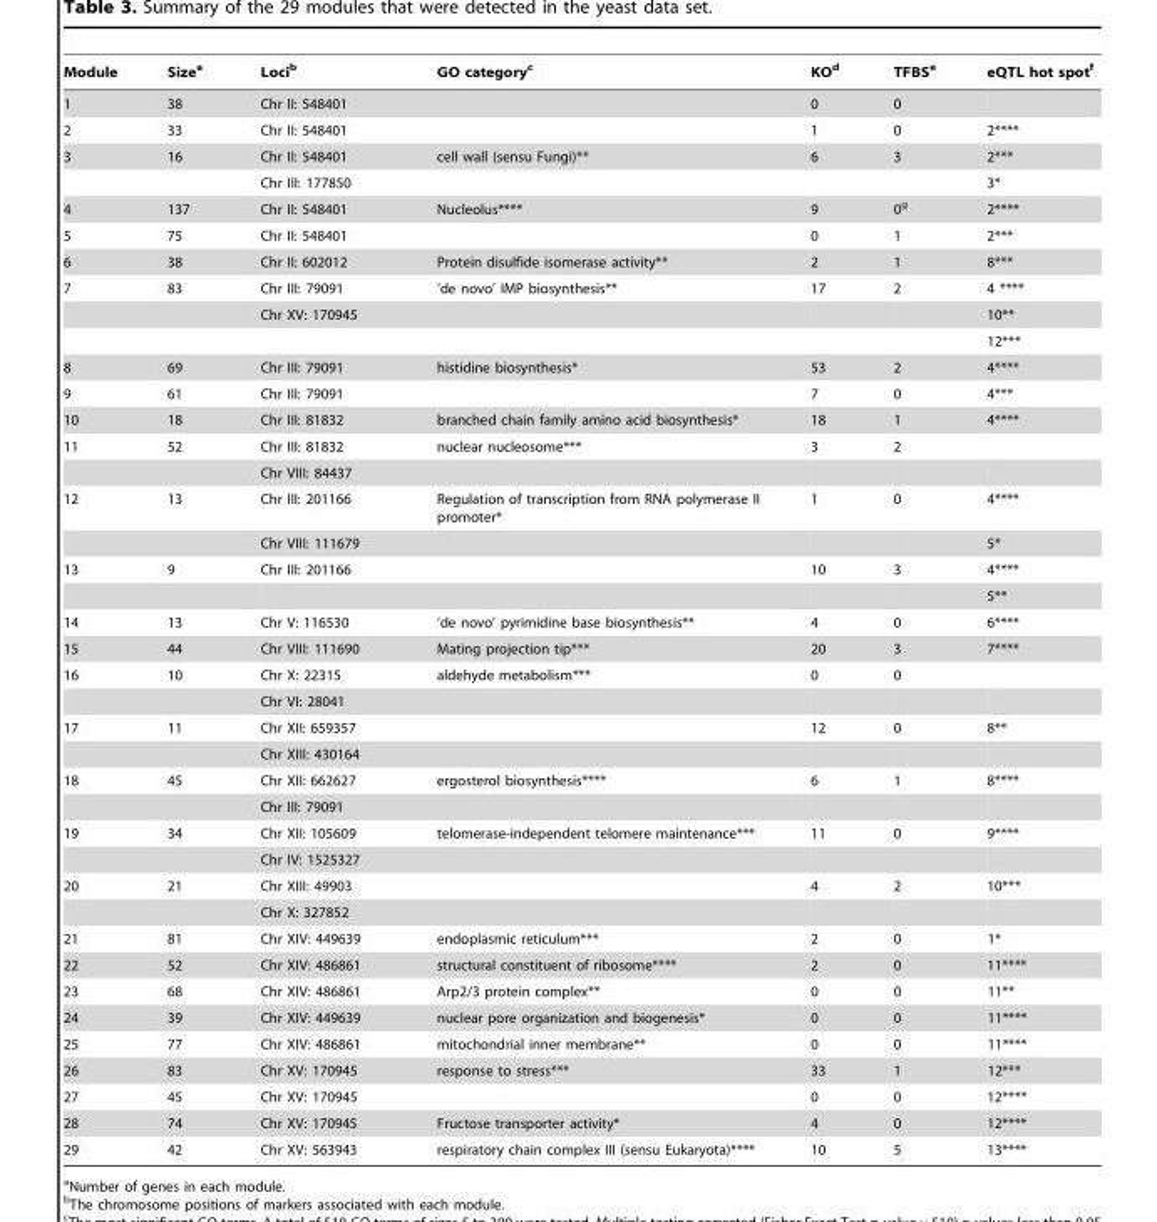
<table><thead><tr><td>Module</td><td>Size<sup>a</sup></td><td>Loci<sup>b</sup></td><td>GO category<sup>c</sup></td><td>KO<sup>d</sup></td><td>TFBS<sup>e</sup></td><td>eQTL hot spot<sup>f</sup></td></tr></thead><tbody><tr><td>1</td><td>38</td><td>Chr II: 548401</td><td></td><td>0</td><td>0</td><td></td></tr><tr><td>2</td><td>33</td><td>Chr II: 548401</td><td></td><td>1</td><td>0</td><td>2****</td></tr><tr><td rowspan="2">3</td><td>16</td><td>Chr II: 548401</td><td>cell wall (sensu Fungi)**</td><td>6</td><td>3</td><td>2***</td></tr><tr><td></td><td>Chr III: 177850</td><td></td><td></td><td></td><td>3*</td></tr><tr><td>4</td><td>137</td><td>Chr II: 548401</td><td>Nucleolus****</td><td>9</td><td>0<sup>g</sup></td><td>2****</td></tr><tr><td>5</td><td>75</td><td>Chr II: 548401</td><td></td><td>0</td><td>1</td><td>2***</td></tr><tr><td>6</td><td>38</td><td>Chr II: 602012</td><td>Protein disulfide isomerase activity**</td><td>2</td><td>1</td><td>8***</td></tr><tr><td rowspan="3">7</td><td>83</td><td>Chr III: 79091</td><td>‘de novo’ IMP biosynthesis**</td><td>17</td><td>2</td><td>4 ****</td></tr><tr><td></td><td>Chr XV: 170945</td><td></td><td></td><td></td><td>10**</td></tr><tr><td></td><td></td><td></td><td></td><td></td><td>12***</td></tr><tr><td>8</td><td>69</td><td>Chr III: 79091</td><td>histidine biosynthesis*</td><td>53</td><td>2</td><td>4****</td></tr><tr><td>9</td><td>61</td><td>Chr III: 79091</td><td></td><td>7</td><td>0</td><td>4***</td></tr><tr><td>10</td><td>18</td><td>Chr III: 81832</td><td>branched chain family amino acid biosynthesis*</td><td>18</td><td>1</td><td>4****</td></tr><tr><td rowspan="2">11</td><td>52</td><td>Chr III: 81832</td><td>nuclear nucleosome***</td><td>3</td><td>2</td><td></td></tr><tr><td></td><td>Chr VIII: 84437</td><td></td><td></td><td></td><td></td></tr><tr><td rowspan="2">12</td><td>13</td><td>Chr III: 201166</td><td>Regulation of transcription from RNA polymerase II promoter*</td><td>1</td><td>0</td><td>4****</td></tr><tr><td></td><td>Chr VIII: 111679</td><td></td><td></td><td></td><td>5*</td></tr><tr><td rowspan="2">13</td><td>9</td><td>Chr III: 201166</td><td></td><td>10</td><td>3</td><td>4****</td></tr><tr><td></td><td></td><td></td><td></td><td></td><td>5**</td></tr><tr><td>14</td><td>13</td><td>Chr V: 116530</td><td>‘de novo’ pyrimidine base biosynthesis**</td><td>4</td><td>0</td><td>6****</td></tr><tr><td>15</td><td>44</td><td>Chr VIII: 111690</td><td>Mating projection tip***</td><td>20</td><td>3</td><td>7****</td></tr><tr><td rowspan="2">16</td><td>10</td><td>Chr X: 22315</td><td>aldehyde metabolism***</td><td>0</td><td>0</td><td></td></tr><tr><td></td><td>Chr VI: 28041</td><td></td><td></td><td></td><td></td></tr><tr><td rowspan="2">17</td><td>11</td><td>Chr XII: 659357</td><td></td><td>12</td><td>0</td><td>8**</td></tr><tr><td></td><td>Chr XIII: 430164</td><td></td><td></td><td></td><td></td></tr><tr><td rowspan="2">18</td><td>45</td><td>Chr XII: 662627</td><td>ergosterol biosynthesis****</td><td>6</td><td>1</td><td>8****</td></tr><tr><td></td><td>Chr III: 79091</td><td></td><td></td><td></td><td></td></tr><tr><td rowspan="2">19</td><td>34</td><td>Chr XII: 105609</td><td>telomerase-independent telomere maintenance***</td><td>11</td><td>0</td><td>9****</td></tr><tr><td></td><td>Chr IV: 1525327</td><td></td><td></td><td></td><td></td></tr><tr><td rowspan="2">20</td><td>21</td><td>Chr XIII: 49903</td><td></td><td>4</td><td>2</td><td>10***</td></tr><tr><td></td><td>Chr X: 327852</td><td></td><td></td><td></td><td></td></tr><tr><td>21</td><td>81</td><td>Chr XIV: 449639</td><td>endoplasmic reticulum***</td><td>2</td><td>0</td><td>1*</td></tr><tr><td>22</td><td>52</td><td>Chr XIV: 486861</td><td>structural constituent of ribosome****</td><td>2</td><td>0</td><td>11****</td></tr><tr><td>23</td><td>68</td><td>Chr XIV: 486861</td><td>Arp2/3 protein complex**</td><td>0</td><td>0</td><td>11**</td></tr><tr><td>24</td><td>39</td><td>Chr XIV: 449639</td><td>nuclear pore organization and biogenesis*</td><td>0</td><td>0</td><td>11****</td></tr><tr><td>25</td><td>77</td><td>Chr XIV: 486861</td><td>mitochondrial inner membrane**</td><td>0</td><td>0</td><td>11****</td></tr><tr><td>26</td><td>83</td><td>Chr XV: 170945</td><td>response to stress***</td><td>33</td><td>1</td><td>12***</td></tr><tr><td>27</td><td>45</td><td>Chr XV: 170945</td><td></td><td>0</td><td>0</td><td>12****</td></tr><tr><td>28</td><td>74</td><td>Chr XV: 170945</td><td>Fructose transporter activity*</td><td>4</td><td>0</td><td>12****</td></tr><tr><td>29</td><td>42</td><td>Chr XV: 563943</td><td>respiratory chain complex III (sensu Eukaryota)****</td><td>10</td><td>5</td><td>13****</td></tr></tbody></table>